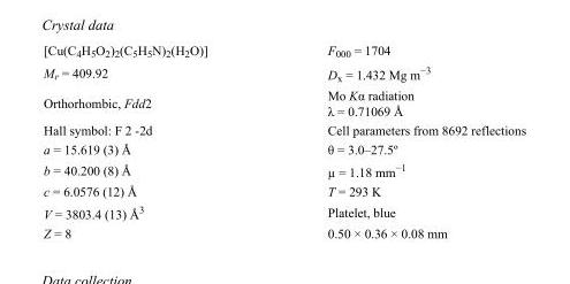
<table><tbody><tr><td>[Cu(C<sub>4</sub>H<sub>5</sub>O<sub>2</sub>)<sub>2</sub>(C<sub>5</sub>H<sub>5</sub>N)<sub>2</sub>(H<sub>2</sub>O)]</td><td>F000 = 1704</td></tr><tr><td>M<sub>r</sub> = 409.92</td><td>D<sub>x</sub> = 1.432 Mg m<sup>−3</sup></td></tr><tr><td>Orthorhombic, Fdd2</td><td>Mo Kα radiation λ = 0.71069 Å</td></tr><tr><td>Hall symbol: F 2 -2d</td><td>Cell parameters from 8692 reflections</td></tr><tr><td>a = 15.619 (3) Å</td><td>θ = 3.0–27.5º</td></tr><tr><td>b = 40.200 (8) Å</td><td>µ = 1.18 mm<sup>−1</sup></td></tr><tr><td>c = 6.0576 (12) Å</td><td>T = 293 K</td></tr><tr><td>V = 3803.4 (13) Å<sup>3</sup></td><td>Platelet, blue</td></tr><tr><td>Z = 8</td><td>0.50 × 0.36 × 0.08 mm</td></tr></tbody></table>